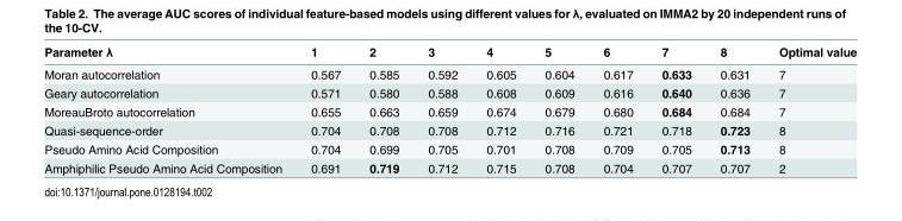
<table><thead><tr><td>Parameter λ</td><td>1</td><td>2</td><td>3</td><td>4</td><td>5</td><td>6</td><td>7</td><td>8</td><td>Optimal value</td></tr></thead><tbody><tr><td>Moran autocorrelation</td><td>0.567</td><td>0.585</td><td>0.592</td><td>0.605</td><td>0.604</td><td>0.617</td><td>0.633</td><td>0.631</td><td>7</td></tr><tr><td>Geary autocorrelation</td><td>0.571</td><td>0.580</td><td>0.588</td><td>0.608</td><td>0.609</td><td>0.616</td><td>0.640</td><td>0.636</td><td>7</td></tr><tr><td>MoreauBroto autocorrelation</td><td>0.655</td><td>0.663</td><td>0.659</td><td>0.674</td><td>0.679</td><td>0.680</td><td>0.684</td><td>0.684</td><td>7</td></tr><tr><td>Quasi-sequence-order</td><td>0.704</td><td>0.708</td><td>0.708</td><td>0.712</td><td>0.716</td><td>0.721</td><td>0.718</td><td>0.723</td><td>8</td></tr><tr><td>Pseudo Amino Acid Composition</td><td>0.704</td><td>0.699</td><td>0.705</td><td>0.701</td><td>0.708</td><td>0.709</td><td>0.705</td><td>0.713</td><td>8</td></tr><tr><td>Amphiphilic Pseudo Amino Acid Composition</td><td>0.691</td><td>0.719</td><td>0.712</td><td>0.715</td><td>0.708</td><td>0.704</td><td>0.707</td><td>0.707</td><td>2</td></tr></tbody></table>